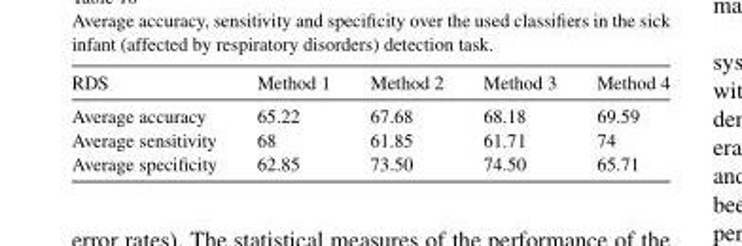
<table><thead><tr><td>RDS</td><td>Method 1</td><td>Method 2</td><td>Method 3</td><td>Method 4</td></tr></thead><tbody><tr><td>Average accuracy</td><td>65.22</td><td>67.68</td><td>68.18</td><td>69.59</td></tr><tr><td>Average sensitivity</td><td>68</td><td>61.85</td><td>61.71</td><td>74</td></tr><tr><td>Average specificity</td><td>62.85</td><td>73.50</td><td>74.50</td><td>65.71</td></tr></tbody></table>